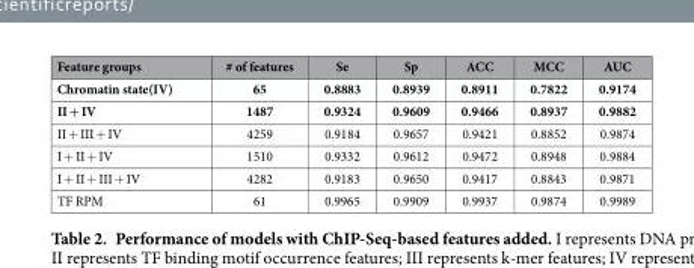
<table><thead><tr><td>Feature groups</td><td># of features</td><td>Se</td><td>Sp</td><td>ACC</td><td>MCC</td><td>AUC</td></tr></thead><tbody><tr><td>Chromatin state(IV)</td><td>65</td><td>0.8883</td><td>0.8939</td><td>0.8911</td><td>0.7822</td><td>0.9174</td></tr><tr><td>II + IV</td><td>1487</td><td>0.9324</td><td>0.9609</td><td>0.9466</td><td>0.8937</td><td>0.9882</td></tr><tr><td>II + III + IV</td><td>4259</td><td>0.9184</td><td>0.9657</td><td>0.9421</td><td>0.8852</td><td>0.9874</td></tr><tr><td>I + II + IV</td><td>1510</td><td>0.9332</td><td>0.9612</td><td>0.9472</td><td>0.8948</td><td>0.9884</td></tr><tr><td>I + II + III + IV</td><td>4282</td><td>0.9183</td><td>0.9650</td><td>0.9417</td><td>0.8843</td><td>0.9871</td></tr><tr><td>TF RPM</td><td>61</td><td>0.9965</td><td>0.9909</td><td>0.9937</td><td>0.9874</td><td>0.9989</td></tr></tbody></table>